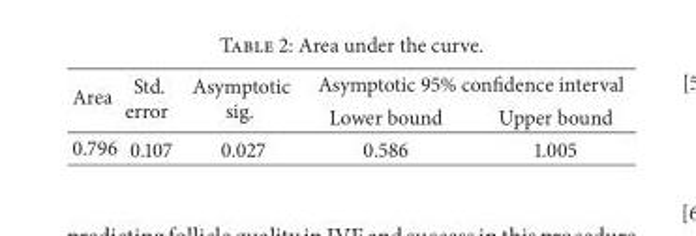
<table><thead><tr><td rowspan="2">Area</td><td rowspan="2">Std. error</td><td rowspan="2">Asymptotic sig.</td><td colspan="2">Asymptotic 95% confidence interval</td></tr><tr><td>Lower bound</td><td>Upper bound</td></tr></thead><tbody><tr><td>0.796</td><td>0.107</td><td>0.027</td><td>0.586</td><td>1.005</td></tr></tbody></table>